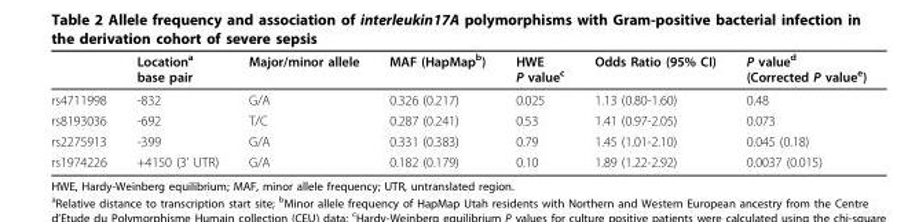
<table><thead><tr><td></td><td>Location<sup>a</sup> base pair</td><td>Major/minor allele</td><td>MAF (HapMap<sup>b</sup>)</td><td>HWE P value<sup>c</sup></td><td>Odds Ratio (95% CI)</td><td>P value<sup>d</sup> (Corrected P value<sup>e</sup>)</td></tr></thead><tbody><tr><td>rs4711998</td><td>-832</td><td>G/A</td><td>0.326 (0.217)</td><td>0.025</td><td>1.13 (0.80-1.60)</td><td>0.48</td></tr><tr><td>rs8193036</td><td>-692</td><td>T/C</td><td>0.287 (0.241)</td><td>0.53</td><td>1.41 (0.97-2.05)</td><td>0.073</td></tr><tr><td>rs2275913</td><td>-399</td><td>G/A</td><td>0.331 (0.383)</td><td>0.79</td><td>1.45 (1.01-2.10)</td><td>0.045 (0.18)</td></tr><tr><td>rs1974226</td><td>+4150 (3’ UTR)</td><td>G/A</td><td>0.182 (0.179)</td><td>0.10</td><td>1.89 (1.22-2.92)</td><td>0.0037 (0.015)</td></tr></tbody></table>